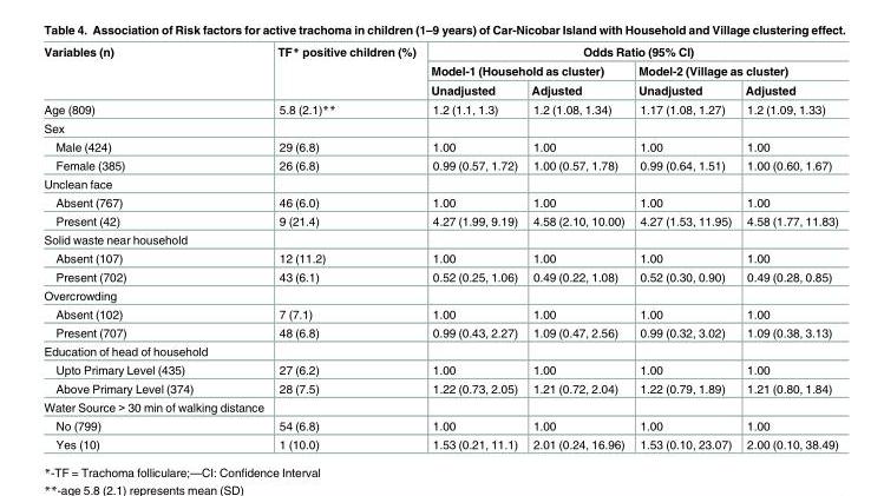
<table><thead><tr><td rowspan="3">Variables (n)</td><td rowspan="3">TF* positive children (%)</td><td colspan="4">Odds Ratio (95% CI)</td></tr><tr><td colspan="2">Model-1 (Household as cluster)</td><td colspan="2">Model-2 (Village as cluster)</td></tr><tr><td>Unadjusted</td><td>Adjusted</td><td>Unadjusted</td><td>Adjusted</td></tr></thead><tbody><tr><td>Age (809)</td><td>5.8 (2.1)**</td><td>1.2 (1.1, 1.3)</td><td>1.2 (1.08, 1.34)</td><td>1.17 (1.08, 1.27)</td><td>1.2 (1.09, 1.33)</td></tr><tr><td colspan="6">Sex</td></tr><tr><td>Male (424)</td><td>29 (6.8)</td><td>1.00</td><td>1.00</td><td>1.00</td><td>1.00</td></tr><tr><td>Female (385)</td><td>26 (6.8)</td><td>0.99 (0.57, 1.72)</td><td>1.00 (0.57, 1.78)</td><td>0.99 (0.64, 1.51)</td><td>1.00 (0.60, 1.67)</td></tr><tr><td colspan="6">Unclean face</td></tr><tr><td>Absent (767)</td><td>46 (6.0)</td><td>1.00</td><td>1.00</td><td>1.00</td><td>1.00</td></tr><tr><td>Present (42)</td><td>9 (21.4)</td><td>4.27 (1.99, 9.19)</td><td>4.58 (2.10, 10.00)</td><td>4.27 (1.53, 11.95)</td><td>4.58 (1.77, 11.83)</td></tr><tr><td colspan="6">Solid waste near household</td></tr><tr><td>Absent (107)</td><td>12 (11.2)</td><td>1.00</td><td>1.00</td><td>1.00</td><td>1.00</td></tr><tr><td>Present (702)</td><td>43 (6.1)</td><td>0.52 (0.25, 1.06)</td><td>0.49 (0.22, 1.08)</td><td>0.52 (0.30, 0.90)</td><td>0.49 (0.28, 0.85)</td></tr><tr><td colspan="6">Overcrowding</td></tr><tr><td>Absent (102)</td><td>7 (7.1)</td><td>1.00</td><td>1.00</td><td>1.00</td><td>1.00</td></tr><tr><td>Present (707)</td><td>48 (6.8)</td><td>0.99 (0.43, 2.27)</td><td>1.09 (0.47, 2.56)</td><td>0.99 (0.32, 3.02)</td><td>1.09 (0.38, 3.13)</td></tr><tr><td colspan="6">Education of head of household</td></tr><tr><td>Upto Primary Level (435)</td><td>27 (6.2)</td><td>1.00</td><td>1.00</td><td>1.00</td><td>1.00</td></tr><tr><td>Above Primary Level (374)</td><td>28 (7.5)</td><td>1.22 (0.73, 2.05)</td><td>1.21 (0.72, 2.04)</td><td>1.22 (0.79, 1.89)</td><td>1.21 (0.80, 1.84)</td></tr><tr><td colspan="6">Water Source &gt; 30 min of walking distance</td></tr><tr><td>No (799)</td><td>54 (6.8)</td><td>1.00</td><td>1.00</td><td>1.00</td><td>1.00</td></tr><tr><td>Yes (10)</td><td>1 (10.0)</td><td>1.53 (0.21, 11.1)</td><td>2.01 (0.24, 16.96)</td><td>1.53 (0.10, 23.07)</td><td>2.00 (0.10, 38.49)</td></tr></tbody></table>